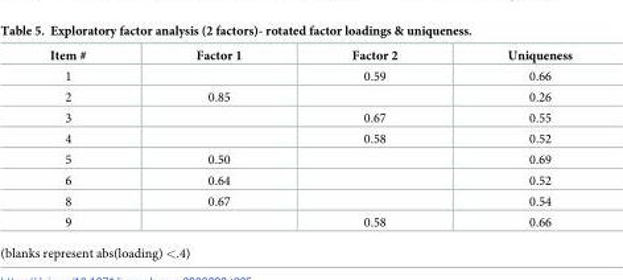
<table><thead><tr><td>Item #</td><td>Factor 1</td><td>Factor 2</td><td>Uniqueness</td></tr></thead><tbody><tr><td>1</td><td></td><td>0.59</td><td>0.66</td></tr><tr><td>2</td><td>0.85</td><td></td><td>0.26</td></tr><tr><td>3</td><td></td><td>0.67</td><td>0.55</td></tr><tr><td>4</td><td></td><td>0.58</td><td>0.52</td></tr><tr><td>5</td><td>0.50</td><td></td><td>0.69</td></tr><tr><td>6</td><td>0.64</td><td></td><td>0.52</td></tr><tr><td>8</td><td>0.67</td><td></td><td>0.54</td></tr><tr><td>9</td><td></td><td>0.58</td><td>0.66</td></tr></tbody></table>